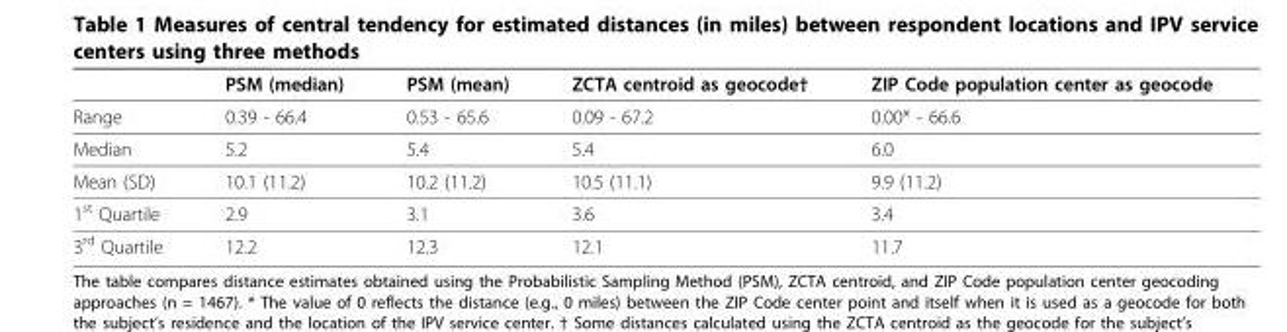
<table><thead><tr><td></td><td>PSM (median)</td><td>PSM (mean)</td><td>ZCTA centroid as geocode†</td><td>ZIP Code population center as geocode</td></tr></thead><tbody><tr><td>Range</td><td>0.39 - 66.4</td><td>0.53 - 65.6</td><td>0.09 - 67.2</td><td>0.00* - 66.6</td></tr><tr><td>Median</td><td>5.2</td><td>5.4</td><td>5.4</td><td>6.0</td></tr><tr><td>Mean (SD)</td><td>10.1 (11.2)</td><td>10.2 (11.2)</td><td>10.5 (11.1)</td><td>9.9 (11.2)</td></tr><tr><td>1<sup>st</sup> Quartile</td><td>2.9</td><td>3.1</td><td>3.6</td><td>3.4</td></tr><tr><td>3<sup>rd</sup> Quartile</td><td>12.2</td><td>12.3</td><td>12.1</td><td>11.7</td></tr></tbody></table>